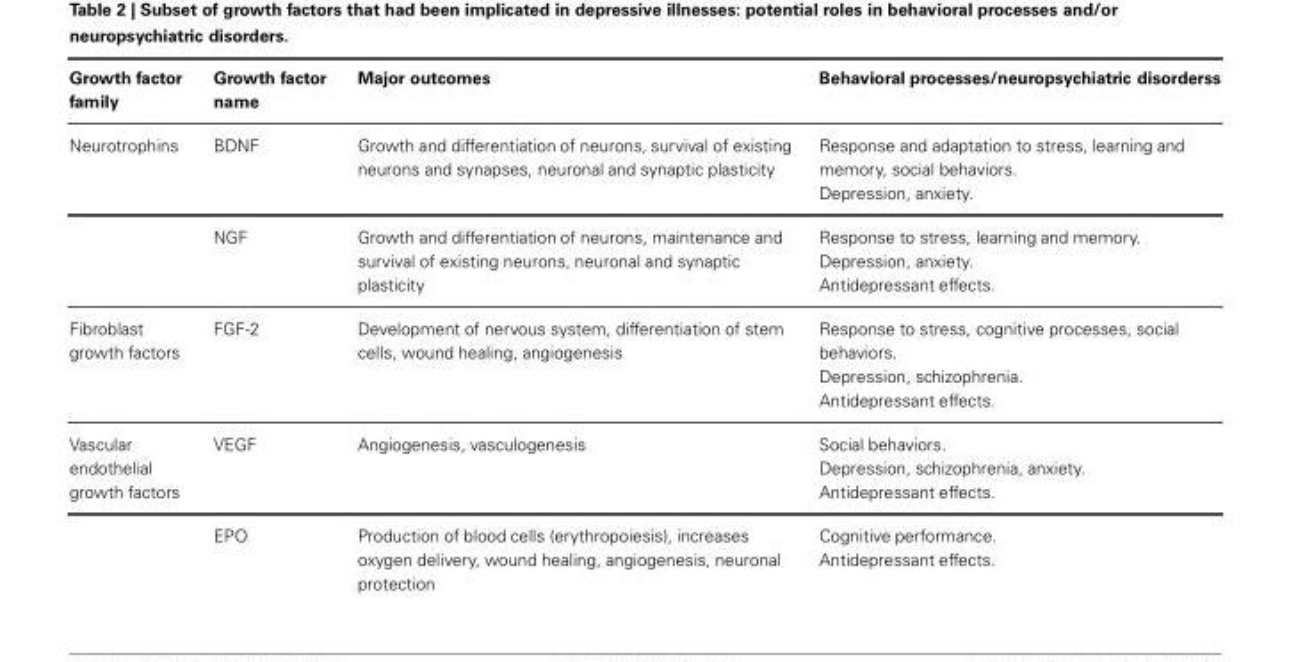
<table><thead><tr><td>Growth factor family</td><td>Growth factor name</td><td>Major outcomes</td><td>Behavioral processes/neuropsychiatric disorderss</td></tr></thead><tbody><tr><td rowspan="2">Neurotrophins</td><td>BDNF</td><td>Growth and differentiation of neurons, survival of existing neurons and synapses, neuronal and synaptic plasticity</td><td>Response and adaptation to stress, learning and memory, social behaviors. Depression, anxiety.</td></tr><tr><td>NGF</td><td>Growth and differentiation of neurons, maintenance and survival of existing neurons, neuronal and synaptic plasticity</td><td>Response to stress, learning and memory. Depression, anxiety. Antidepressant effects.</td></tr><tr><td>Fibroblast growth factors</td><td>FGF-2</td><td>Development of nervous system, differentiation of stem cells, wound healing, angiogenesis</td><td>Response to stress, cognitive processes, social behaviors. Depression, schizophrenia. Antidepressant effects.</td></tr><tr><td rowspan="2">Vascular endothelial growth factors</td><td>VEGF</td><td>Angiogenesis, vasculogenesis</td><td>Social behaviors. Depression, schizophrenia, anxiety. Antidepressant effects.</td></tr><tr><td>EPO</td><td>Production of blood cells (erythropoiesis), increases oxygen delivery, wound healing, angiogenesis, neuronal protection</td><td>Cognitive performance. Antidepressant effects.</td></tr></tbody></table>